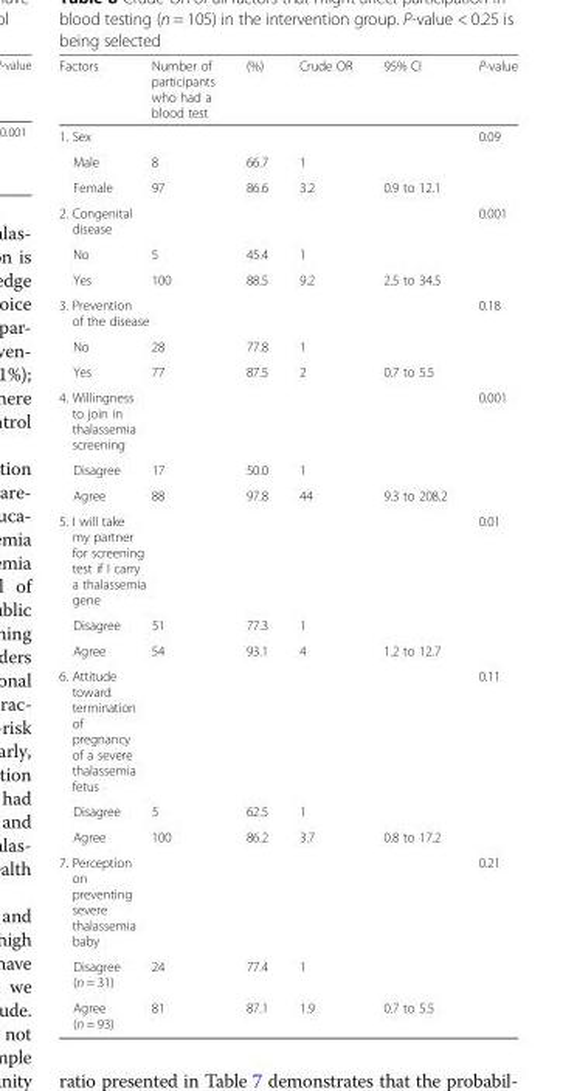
<table><thead><tr><td>Factors</td><td>Number of participants who had a blood test</td><td>(%)</td><td>Crude OR</td><td>95% CI</td><td>P-value</td></tr></thead><tbody><tr><td colspan="5">1. Sex</td><td rowspan="3">0.09</td></tr><tr><td>Male</td><td>8</td><td>66.7</td><td>1</td><td></td></tr><tr><td>Female</td><td>97</td><td>86.6</td><td>3.2</td><td>0.9 to 12.1</td></tr><tr><td colspan="5">2. Congenital disease</td><td rowspan="3">0.001</td></tr><tr><td>No</td><td>5</td><td>45.4</td><td>1</td><td></td></tr><tr><td>Yes</td><td>100</td><td>88.5</td><td>9.2</td><td>2.5 to 34.5</td></tr><tr><td colspan="5">3. Prevention of the disease</td><td rowspan="3">0.18</td></tr><tr><td>No</td><td>28</td><td>77.8</td><td>1</td><td></td></tr><tr><td>Yes</td><td>77</td><td>87.5</td><td>2</td><td>0.7 to 5.5</td></tr><tr><td colspan="5">4. Willingness to join in thalassemia screening</td><td rowspan="3">0.001</td></tr><tr><td>Disagree</td><td>17</td><td>50.0</td><td>1</td><td></td></tr><tr><td>Agree</td><td>88</td><td>97.8</td><td>44</td><td>9.3 to 208.2</td></tr><tr><td colspan="5">5. I will take my partner for screening test if I carry a thalassemia gene</td><td rowspan="3">0.01</td></tr><tr><td>Disagree</td><td>51</td><td>77.3</td><td>1</td><td></td></tr><tr><td>Agree</td><td>54</td><td>93.1</td><td>4</td><td>1.2 to 12.7</td></tr><tr><td colspan="5">6. Attitude toward termination of pregnancy of a severe thalassemia fetus</td><td rowspan="3">0.11</td></tr><tr><td>Disagree</td><td>5</td><td>62.5</td><td>1</td><td></td></tr><tr><td>Agree</td><td>100</td><td>86.2</td><td>3.7</td><td>0.8 to 17.2</td></tr><tr><td colspan="5">7. Perception on preventing severe thalassemia baby</td><td rowspan="3">0.21</td></tr><tr><td>Disagree (n = 31)</td><td>24</td><td>77.4</td><td>1</td><td></td></tr><tr><td>Agree (n = 93)</td><td>81</td><td>87.1</td><td>1.9</td><td>0.7 to 5.5</td></tr></tbody></table>